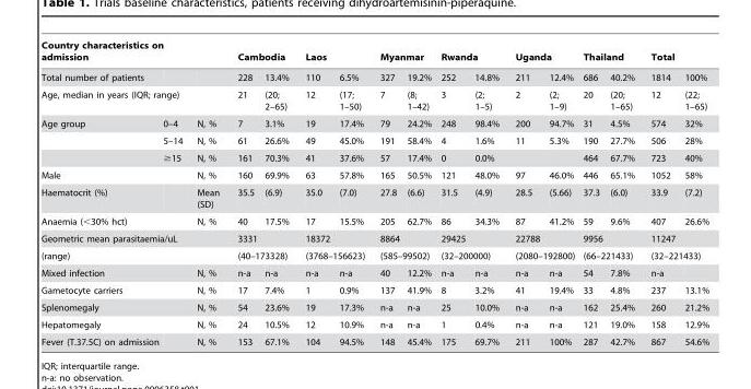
<table><thead><tr><td colspan="2">Country characteristics on admission</td><td rowspan="2"></td><td colspan="2">Cambodia</td><td colspan="2">Laos</td><td colspan="2">Myanmar</td><td colspan="2">Rwanda</td><td colspan="2">Uganda</td><td colspan="2">Thailand</td><td colspan="2">Total</td></tr><tr><td>Total number of patients</td><td></td><td>228</td><td>13.4%</td><td>110</td><td>6.5%</td><td>327</td><td>19.2%</td><td>252</td><td>14.8%</td><td>211</td><td>12.4%</td><td>686</td><td>40.2%</td><td>1814</td><td>100%</td></tr></thead><tbody><tr><td colspan="3">Age, median in years (IQR; range)</td><td>21</td><td>(20; 2–65)</td><td>12</td><td>(17; 1–50)</td><td>7</td><td>(8; 1–42)</td><td>3</td><td>(2; 1–5)</td><td>2</td><td>(2; 1–9)</td><td>20</td><td>(20; 1–65)</td><td>12</td><td>(22; 1–65)</td></tr><tr><td rowspan="3">Age group</td><td>0–4</td><td>N, %</td><td>7</td><td>3.1%</td><td>19</td><td>17.4%</td><td>79</td><td>24.2%</td><td>248</td><td>98.4%</td><td>200</td><td>94.7%</td><td>31</td><td>4.5%</td><td>574</td><td>32%</td></tr><tr><td>5–14</td><td>N, %</td><td>61</td><td>26.6%</td><td>49</td><td>45.0%</td><td>191</td><td>58.4%</td><td>4</td><td>1.6%</td><td>11</td><td>5.3%</td><td>190</td><td>27.7%</td><td>506</td><td>28%</td></tr><tr><td>≥15</td><td>N, %</td><td>161</td><td>70.3%</td><td>41</td><td>37.6%</td><td>57</td><td>17.4%</td><td>0</td><td>0.0%</td><td></td><td></td><td>464</td><td>67.7%</td><td>723</td><td>40%</td></tr><tr><td>Male</td><td></td><td>N, %</td><td>160</td><td>69.9%</td><td>63</td><td>57.8%</td><td>165</td><td>50.5%</td><td>121</td><td>48.0%</td><td>97</td><td>46.0%</td><td>446</td><td>65.1%</td><td>1052</td><td>58%</td></tr><tr><td>Haematocrit (%)</td><td></td><td>Mean (SD)</td><td>35.5</td><td>(6.9)</td><td>35.0</td><td>(7.0)</td><td>27.8</td><td>(6.6)</td><td>31.5</td><td>(4.9)</td><td>28.5</td><td>(5.66)</td><td>37.3</td><td>(6.0)</td><td>33.9</td><td>(7.2)</td></tr><tr><td colspan="2">Anaemia (&lt;30% hct)</td><td>N, %</td><td>40</td><td>17.5%</td><td>17</td><td>15.5%</td><td>205</td><td>62.7%</td><td>86</td><td>34.3%</td><td>87</td><td>41.2%</td><td>59</td><td>9.6%</td><td>407</td><td>26.6%</td></tr><tr><td colspan="3">Geometric mean parasitaemia/uL</td><td colspan="2">3331</td><td colspan="2">18372</td><td colspan="2">8864</td><td colspan="2">29425</td><td colspan="2">22788</td><td colspan="2">9956</td><td colspan="2">11247</td></tr><tr><td colspan="2">(range)</td><td></td><td colspan="2">(40–173328)</td><td colspan="2">(3768–156623)</td><td colspan="2">(585–99502)</td><td colspan="2">(32–200000)</td><td colspan="2">(2080–192800)</td><td colspan="2">(66–221433)</td><td colspan="2">(32–221433)</td></tr><tr><td colspan="2">Mixed infection</td><td>N, %</td><td>n-a</td><td>n-a</td><td>n-a</td><td>n-a</td><td>40</td><td>12.2%</td><td>n-a</td><td>n-a</td><td>n-a</td><td>n-a</td><td>54</td><td>7.8%</td><td>n-a</td><td></td></tr><tr><td colspan="2">Gametocyte carriers</td><td>N, %</td><td>17</td><td>7.4%</td><td>1</td><td>0.9%</td><td>137</td><td>41.9%</td><td>8</td><td>3.2%</td><td>41</td><td>19.4%</td><td>33</td><td>4.8%</td><td>237</td><td>13.1%</td></tr><tr><td colspan="2">Splenomegaly</td><td>N, %</td><td>54</td><td>23.6%</td><td>19</td><td>17.3%</td><td>n-a</td><td>n-a</td><td>25</td><td>10.0%</td><td>n-a</td><td>n-a</td><td>162</td><td>25.4%</td><td>260</td><td>21.2%</td></tr><tr><td colspan="2">Hepatomegaly</td><td>N, %</td><td>24</td><td>10.5%</td><td>12</td><td>10.9%</td><td>n-a</td><td>n-a</td><td>1</td><td>0.4%</td><td>n-a</td><td>n-a</td><td>121</td><td>19.0%</td><td>158</td><td>12.9%</td></tr><tr><td>Fever (T.37.5C) on admission</td><td></td><td>N, %</td><td>153</td><td>67.1%</td><td>104</td><td>94.5%</td><td>148</td><td>45.4%</td><td>175</td><td>69.7%</td><td>211</td><td>100%</td><td>287</td><td>42.7%</td><td>867</td><td>54.6%</td></tr></tbody></table>